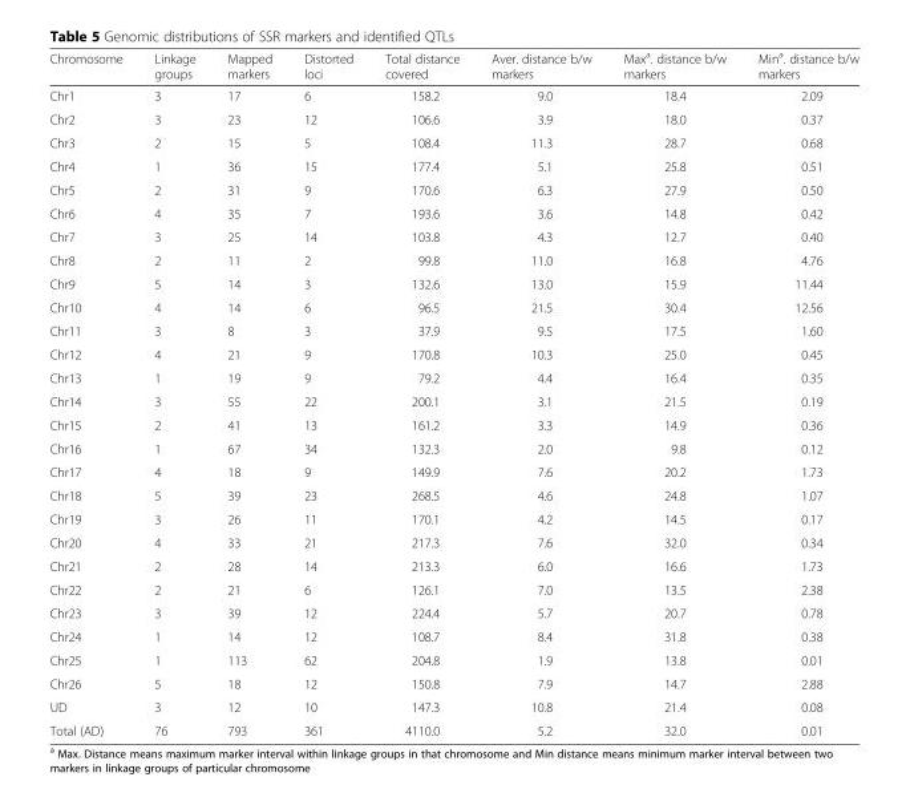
<table><thead><tr><td>Chromosome</td><td>Linkage groups</td><td>Mapped markers</td><td>Distorted loci</td><td>Total distance covered</td><td>Aver. distance b/w markers</td><td>Max<sup>a</sup>. distance b/w markers</td><td>Min<sup>a</sup>. distance b/w markers</td></tr></thead><tbody><tr><td>Chr1</td><td>3</td><td>17</td><td>6</td><td>158.2</td><td>9.0</td><td>18.4</td><td>2.09</td></tr><tr><td>Chr2</td><td>3</td><td>23</td><td>12</td><td>106.6</td><td>3.9</td><td>18.0</td><td>0.37</td></tr><tr><td>Chr3</td><td>2</td><td>15</td><td>5</td><td>108.4</td><td>11.3</td><td>28.7</td><td>0.68</td></tr><tr><td>Chr4</td><td>1</td><td>36</td><td>15</td><td>177.4</td><td>5.1</td><td>25.8</td><td>0.51</td></tr><tr><td>Chr5</td><td>2</td><td>31</td><td>9</td><td>170.6</td><td>6.3</td><td>27.9</td><td>0.50</td></tr><tr><td>Chr6</td><td>4</td><td>35</td><td>7</td><td>193.6</td><td>3.6</td><td>14.8</td><td>0.42</td></tr><tr><td>Chr7</td><td>3</td><td>25</td><td>14</td><td>103.8</td><td>4.3</td><td>12.7</td><td>0.40</td></tr><tr><td>Chr8</td><td>2</td><td>11</td><td>2</td><td>99.8</td><td>11.0</td><td>16.8</td><td>4.76</td></tr><tr><td>Chr9</td><td>5</td><td>14</td><td>3</td><td>132.6</td><td>13.0</td><td>15.9</td><td>11.44</td></tr><tr><td>Chr10</td><td>4</td><td>14</td><td>6</td><td>96.5</td><td>21.5</td><td>30.4</td><td>12.56</td></tr><tr><td>Chr11</td><td>3</td><td>8</td><td>3</td><td>37.9</td><td>9.5</td><td>17.5</td><td>1.60</td></tr><tr><td>Chr12</td><td>4</td><td>21</td><td>9</td><td>170.8</td><td>10.3</td><td>25.0</td><td>0.45</td></tr><tr><td>Chr13</td><td>1</td><td>19</td><td>9</td><td>79.2</td><td>4.4</td><td>16.4</td><td>0.35</td></tr><tr><td>Chr14</td><td>3</td><td>55</td><td>22</td><td>200.1</td><td>3.1</td><td>21.5</td><td>0.19</td></tr><tr><td>Chr15</td><td>2</td><td>41</td><td>13</td><td>161.2</td><td>3.3</td><td>14.9</td><td>0.36</td></tr><tr><td>Chr16</td><td>1</td><td>67</td><td>34</td><td>132.3</td><td>2.0</td><td>9.8</td><td>0.12</td></tr><tr><td>Chr17</td><td>4</td><td>18</td><td>9</td><td>149.9</td><td>7.6</td><td>20.2</td><td>1.73</td></tr><tr><td>Chr18</td><td>5</td><td>39</td><td>23</td><td>268.5</td><td>4.6</td><td>24.8</td><td>1.07</td></tr><tr><td>Chr19</td><td>3</td><td>26</td><td>11</td><td>170.1</td><td>4.2</td><td>14.5</td><td>0.17</td></tr><tr><td>Chr20</td><td>4</td><td>33</td><td>21</td><td>217.3</td><td>7.6</td><td>32.0</td><td>0.34</td></tr><tr><td>Chr21</td><td>2</td><td>28</td><td>14</td><td>213.3</td><td>6.0</td><td>16.6</td><td>1.73</td></tr><tr><td>Chr22</td><td>2</td><td>21</td><td>6</td><td>126.1</td><td>7.0</td><td>13.5</td><td>2.38</td></tr><tr><td>Chr23</td><td>3</td><td>39</td><td>12</td><td>224.4</td><td>5.7</td><td>20.7</td><td>0.78</td></tr><tr><td>Chr24</td><td>1</td><td>14</td><td>12</td><td>108.7</td><td>8.4</td><td>31.8</td><td>0.38</td></tr><tr><td>Chr25</td><td>1</td><td>113</td><td>62</td><td>204.8</td><td>1.9</td><td>13.8</td><td>0.01</td></tr><tr><td>Chr26</td><td>5</td><td>18</td><td>12</td><td>150.8</td><td>7.9</td><td>14.7</td><td>2.88</td></tr><tr><td>UD</td><td>3</td><td>12</td><td>10</td><td>147.3</td><td>10.8</td><td>21.4</td><td>0.08</td></tr><tr><td>Total (AD)</td><td>76</td><td>793</td><td>361</td><td>4110.0</td><td>5.2</td><td>32.0</td><td>0.01</td></tr></tbody></table>